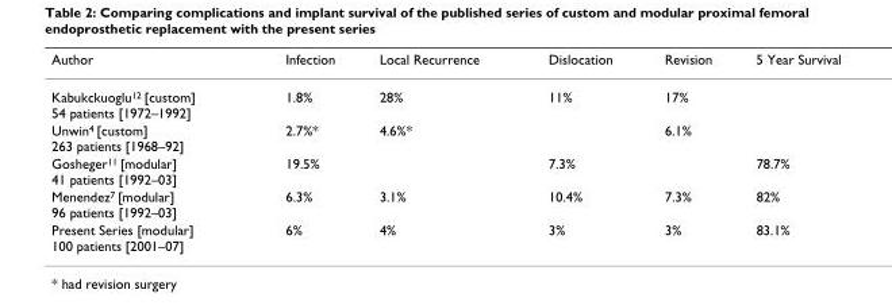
<table><thead><tr><td>Author</td><td>Infection</td><td>Local Recurrence</td><td>Dislocation</td><td>Revision</td><td>5 Year Survival</td></tr></thead><tbody><tr><td>Kabukckuoglu<sup>12</sup> [custom] 54 patients [1972–1992]</td><td>1.8%</td><td>28%</td><td>11%</td><td>17%</td><td></td></tr><tr><td>Unwin<sup>4</sup> [custom] 263 patients [1968–92]</td><td>2.7%*</td><td>4.6%*</td><td></td><td>6.1%</td><td></td></tr><tr><td>Gosheger<sup>11</sup> [modular] 41 patients [1992–03]</td><td>19.5%</td><td></td><td>7.3%</td><td></td><td>78.7%</td></tr><tr><td>Menendez<sup>7</sup> [modular] 96 patients [1992–03]</td><td>6.3%</td><td>3.1%</td><td>10.4%</td><td>7.3%</td><td>82%</td></tr><tr><td>Present Series [modular] 100 patients [2001–07]</td><td>6%</td><td>4%</td><td>3%</td><td>3%</td><td>83.1%</td></tr></tbody></table>